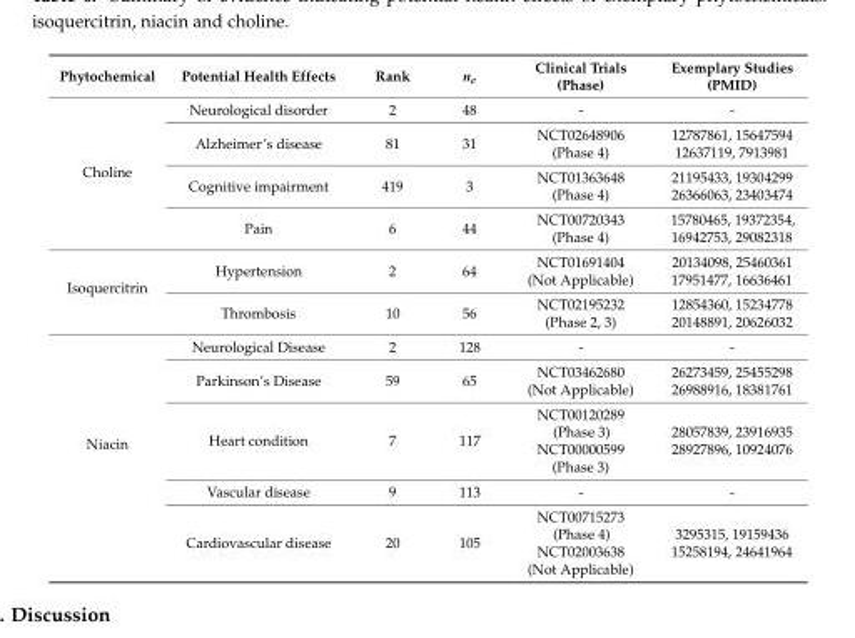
<table><thead><tr><td>Phytochemical</td><td>Potential Health Effects</td><td>Rank</td><td>n<sub>e</sub></td><td>Clinical Trials (Phase)</td><td>Exemplary Studies (PMID)</td></tr></thead><tbody><tr><td rowspan="4">Choline</td><td>Neurological disorder</td><td>2</td><td>48</td><td>-</td><td>-</td></tr><tr><td>Alzheimer’s disease</td><td>81</td><td>31</td><td>NCT02648906 (Phase 4)</td><td>12787861, 15647594 12637119, 7913981</td></tr><tr><td>Cognitive impairment</td><td>419</td><td>3</td><td>NCT01363648 (Phase 4)</td><td>21195433, 19304299 26366063, 23403474</td></tr><tr><td>Pain</td><td>6</td><td>44</td><td>NCT00720343 (Phase 4)</td><td>15780465, 19372354, 16942753, 29082318</td></tr><tr><td rowspan="2">Isoquercitrin</td><td>Hypertension</td><td>2</td><td>64</td><td>NCT01691404 (Not Applicable)</td><td>20134098, 25460361 17951477, 16636461</td></tr><tr><td>Thrombosis</td><td>10</td><td>56</td><td>NCT02195232 (Phase 2, 3)</td><td>12854360, 15234778 20148891, 20626032</td></tr><tr><td rowspan="5">Niacin</td><td>Neurological Disease</td><td>2</td><td>128</td><td>-</td><td>-</td></tr><tr><td>Parkinson’s Disease</td><td>59</td><td>65</td><td>NCT03462680 (Not Applicable)</td><td>26273459, 25455298 26988916, 18381761</td></tr><tr><td>Heart condition</td><td>7</td><td>117</td><td>NCT00120289 (Phase 3) NCT00000599 (Phase 3)</td><td>28057839, 23916935 28927896, 10924076</td></tr><tr><td>Vascular disease</td><td>9</td><td>113</td><td>-</td><td>-</td></tr><tr><td>Cardiovascular disease</td><td>20</td><td>105</td><td>NCT00715273 (Phase 4) NCT02003638 (Not Applicable)</td><td>3295315, 19159436 15258194, 24641964</td></tr></tbody></table>